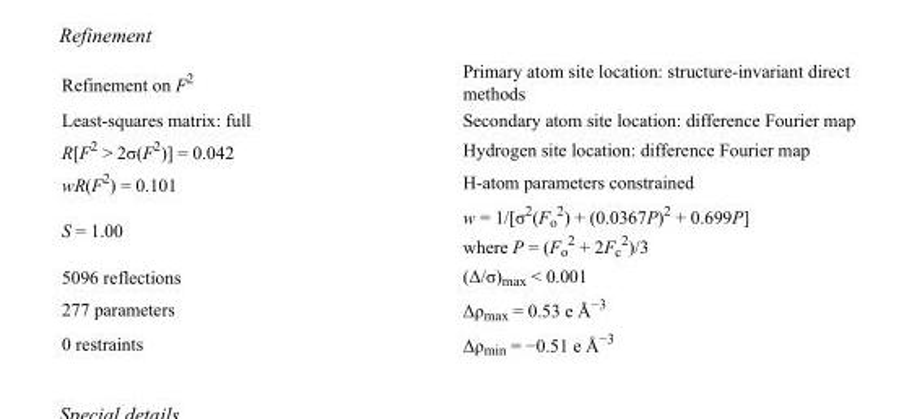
<table><tbody><tr><td>Refinement on F<sup>2</sup></td><td>Primary atom site location: structure-invariant direct methods</td></tr><tr><td>Least-squares matrix: full</td><td>Secondary atom site location: difference Fourier map</td></tr><tr><td>R[F<sup>2</sup> &gt; 2σ(F<sup>2</sup>)] = 0.042</td><td>Hydrogen site location: difference Fourier map</td></tr><tr><td>wR(F<sup>2</sup>) = 0.101</td><td>H-atom parameters constrained</td></tr><tr><td>S = 1.00</td><td>w = 1/[σ<sup>2</sup>(F<sub>o</sub> <sup>2</sup>) + (0.0367P)<sup>2</sup> + 0.699P] where P = (F<sub>o</sub> <sup>2</sup> + 2F<sub>c</sub> <sup>2</sup>)/3</td></tr><tr><td>5096 reflections</td><td>(Δ/σ)<sub>max</sub> &lt; 0.001</td></tr><tr><td>277 parameters</td><td>Δρ<sub>max</sub> = 0.53 e Å<sup>−3</sup></td></tr><tr><td>0 restraints</td><td>Δρ<sub>min</sub> = −0.51 e Å<sup>−3</sup></td></tr></tbody></table>